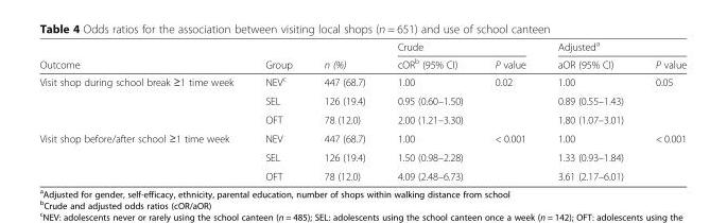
<table><thead><tr><td rowspan="2">Outcome</td><td rowspan="2">Group</td><td rowspan="2">n (%)</td><td colspan="2">Crude</td><td colspan="2">Adjusted<sup>a</sup></td></tr><tr><td>cOR<sup>b</sup> (95% CI)</td><td>P value</td><td>aOR (95% CI)</td><td>P value</td></tr></thead><tbody><tr><td rowspan="3">Visit shop during school break ≥1 time week</td><td>NEV<sup>c</sup></td><td>447 (68.7)</td><td>1.00</td><td rowspan="3">0.02</td><td>1.00</td><td rowspan="3">0.05</td></tr><tr><td>SEL</td><td>126 (19.4)</td><td>0.95 (0.60–1.50)</td><td>0.89 (0.55–1.43)</td></tr><tr><td>OFT</td><td>78 (12.0)</td><td>2.00 (1.21–3.30)</td><td>1.80 (1.07–3.01)</td></tr><tr><td rowspan="3">Visit shop before/after school ≥1 time week</td><td>NEV</td><td>447 (68.7)</td><td>1.00</td><td rowspan="3">&lt; 0.001</td><td>1.00</td><td rowspan="3">&lt; 0.001</td></tr><tr><td>SEL</td><td>126 (19.4)</td><td>1.50 (0.98–2.28)</td><td>1.33 (0.93–1.84)</td></tr><tr><td>OFT</td><td>78 (12.0)</td><td>4.09 (2.48–6.73)</td><td>3.61 (2.17–6.01)</td></tr></tbody></table>